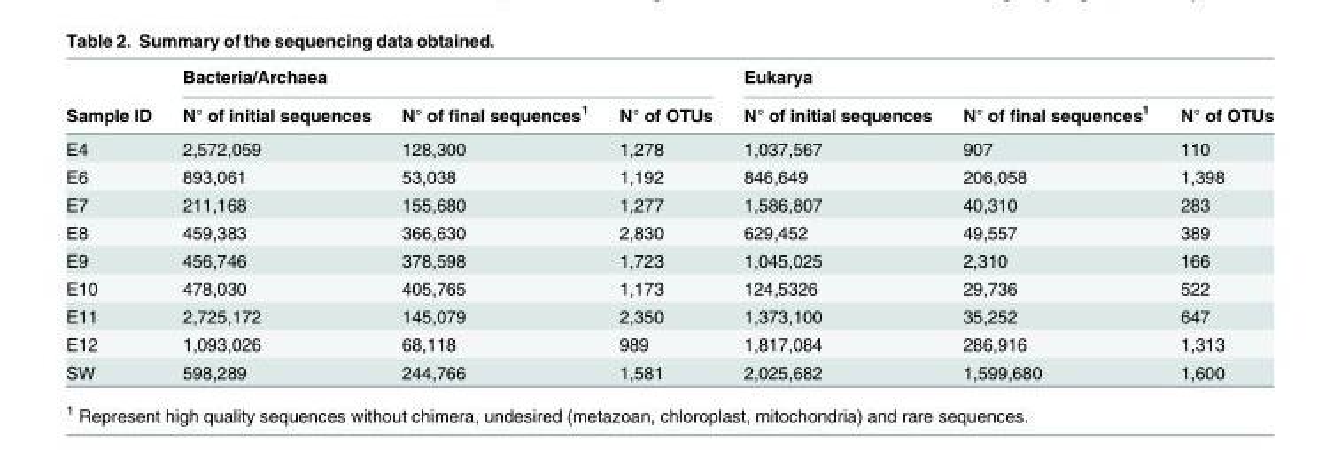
<table><thead><tr><td rowspan="2">Sample ID</td><td colspan="3">Bacteria/Archaea</td><td colspan="3">Eukarya</td></tr><tr><td>N° of initial sequences</td><td>N° of final sequences<sup>1</sup></td><td>N° of OTUs</td><td>N° of initial sequences</td><td>N° of final sequences<sup>1</sup></td><td>N° of OTUs</td></tr></thead><tbody><tr><td>E4</td><td>2,572,059</td><td>128,300</td><td>1,278</td><td>1,037,567</td><td>907</td><td>110</td></tr><tr><td>E6</td><td>893,061</td><td>53,038</td><td>1,192</td><td>846,649</td><td>206,058</td><td>1,398</td></tr><tr><td>E7</td><td>211,168</td><td>155,680</td><td>1,277</td><td>1,586,807</td><td>40,310</td><td>283</td></tr><tr><td>E8</td><td>459,383</td><td>366,630</td><td>2,830</td><td>629,452</td><td>49,557</td><td>389</td></tr><tr><td>E9</td><td>456,746</td><td>378,598</td><td>1,723</td><td>1,045,025</td><td>2,310</td><td>166</td></tr><tr><td>E10</td><td>478,030</td><td>405,765</td><td>1,173</td><td>124,5326</td><td>29,736</td><td>522</td></tr><tr><td>E11</td><td>2,725,172</td><td>145,079</td><td>2,350</td><td>1,373,100</td><td>35,252</td><td>647</td></tr><tr><td>E12</td><td>1,093,026</td><td>68,118</td><td>989</td><td>1,817,084</td><td>286,916</td><td>1,313</td></tr><tr><td>SW</td><td>598,289</td><td>244,766</td><td>1,581</td><td>2,025,682</td><td>1,599,680</td><td>1,600</td></tr></tbody></table>